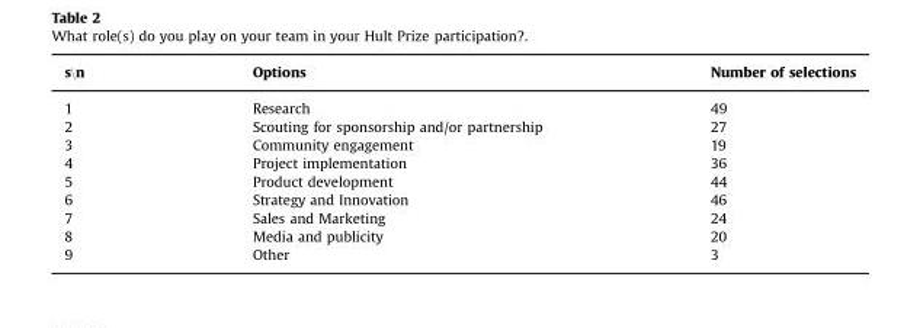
<table><thead><tr><td>s\n</td><td>Options</td><td>Number of selections</td></tr></thead><tbody><tr><td>1</td><td>Research</td><td>49</td></tr><tr><td>2</td><td>Scouting for sponsorship and/or partnership</td><td>27</td></tr><tr><td>3</td><td>Community engagement</td><td>19</td></tr><tr><td>4</td><td>Project implementation</td><td>36</td></tr><tr><td>5</td><td>Product development</td><td>44</td></tr><tr><td>6</td><td>Strategy and Innovation</td><td>46</td></tr><tr><td>7</td><td>Sales and Marketing</td><td>24</td></tr><tr><td>8</td><td>Media and publicity</td><td>20</td></tr><tr><td>9</td><td>Other</td><td>3</td></tr></tbody></table>